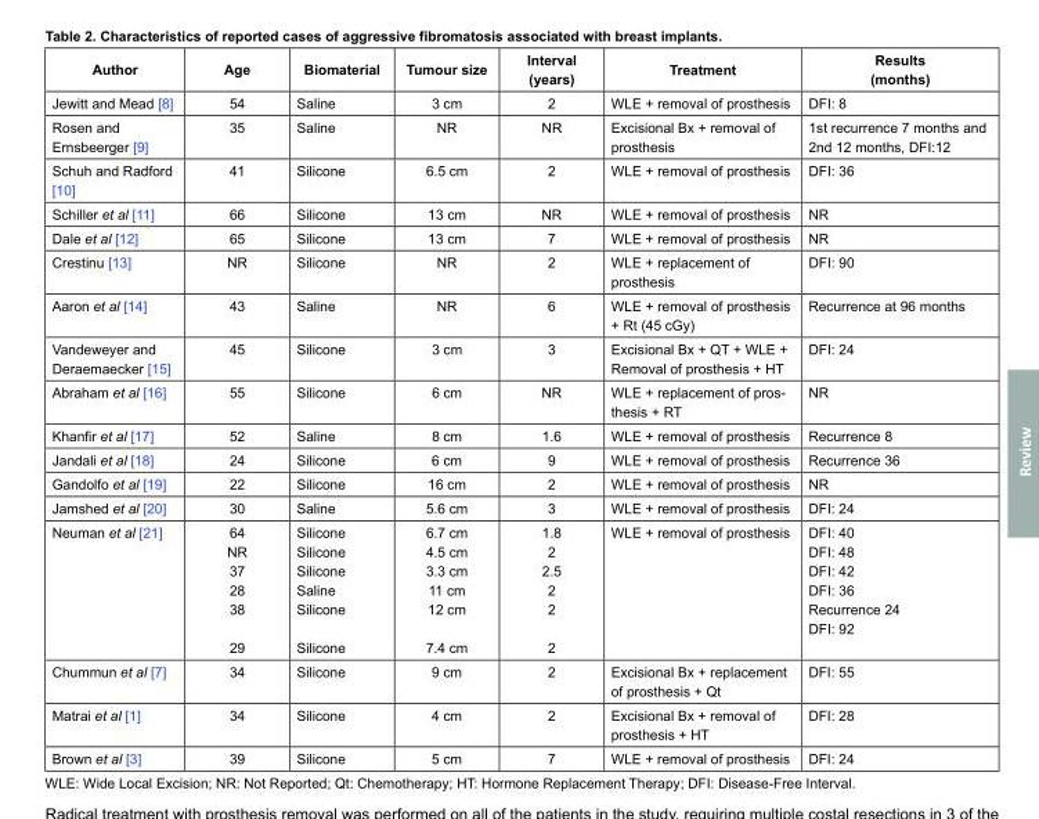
<table><thead><tr><td>Author</td><td>Age</td><td>Biomaterial</td><td>Tumour size</td><td>Interval (years)</td><td>Treatment</td><td>Results (months)</td></tr></thead><tbody><tr><td>Jewitt and Mead [8]</td><td>54</td><td>Saline</td><td>3 cm</td><td>2</td><td>WLE + removal of prosthesis</td><td>DFI: 8</td></tr><tr><td>Rosen and Ernsbeerger [9]</td><td>35</td><td>Saline</td><td>NR</td><td>NR</td><td>Excisional Bx + removal of prosthesis</td><td>1st recurrence 7 months and 2nd 12 months, DFI:12</td></tr><tr><td>Schuh and Radford [10]</td><td>41</td><td>Silicone</td><td>6.5 cm</td><td>2</td><td>WLE + removal of prosthesis</td><td>DFI: 36</td></tr><tr><td>Schiller et al [11]</td><td>66</td><td>Silicone</td><td>13 cm</td><td>NR</td><td>WLE + removal of prosthesis</td><td>NR</td></tr><tr><td>Dale et al [12]</td><td>65</td><td>Silicone</td><td>13 cm</td><td>7</td><td>WLE + removal of prosthesis</td><td>NR</td></tr><tr><td>Crestinu [13]</td><td>NR</td><td>Silicone</td><td>NR</td><td>2</td><td>WLE + replacement of prosthesis</td><td>DFI: 90</td></tr><tr><td>Aaron et al [14]</td><td>43</td><td>Saline</td><td>NR</td><td>6</td><td>WLE + removal of prosthesis + Rt (45 cGy)</td><td>Recurrence at 96 months</td></tr><tr><td>Vandeweyer and Deraemaecker [15]</td><td>45</td><td>Silicone</td><td>3 cm</td><td>3</td><td>Excisional Bx + QT + WLE + Removal of prosthesis + HT</td><td>DFI: 24</td></tr><tr><td>Abraham et al [16]</td><td>55</td><td>Silicone</td><td>6 cm</td><td>NR</td><td>WLE + replacement of pros- thesis + RT</td><td>NR</td></tr><tr><td>Khanfir et al [17]</td><td>52</td><td>Saline</td><td>8 cm</td><td>1.6</td><td>WLE + removal of prosthesis</td><td>Recurrence 8</td></tr><tr><td>Jandali et al [18]</td><td>24</td><td>Silicone</td><td>6 cm</td><td>9</td><td>WLE + removal of prosthesis</td><td>Recurrence 36</td></tr><tr><td>Gandolfo et al [19]</td><td>22</td><td>Silicone</td><td>16 cm</td><td>2</td><td>WLE + removal of prosthesis</td><td>NR</td></tr><tr><td>Jamshed et al [20]</td><td>30</td><td>Saline</td><td>5.6 cm</td><td>3</td><td>WLE + removal of prosthesis</td><td>DFI: 24</td></tr><tr><td>Neuman et al [21]</td><td>64 NR 37 28 38 29</td><td>Silicone Silicone Silicone Saline Silicone Silicone</td><td>6.7 cm 4.5 cm 3.3 cm 11 cm 12 cm 7.4 cm</td><td>1.8 2 2.5 2 2 2</td><td>WLE + removal of prosthesis</td><td>DFI: 40 DFI: 48 DFI: 42 DFI: 36 Recurrence 24 DFI: 92</td></tr><tr><td>Chummun et al [7]</td><td>34</td><td>Silicone</td><td>9 cm</td><td>2</td><td>Excisional Bx + replacement of prosthesis + Qt</td><td>DFI: 55</td></tr><tr><td>Matrai et al [1]</td><td>34</td><td>Silicone</td><td>4 cm</td><td>2</td><td>Excisional Bx + removal of prosthesis + HT</td><td>DFI: 28</td></tr><tr><td>Brown et al [3]</td><td>39</td><td>Silicone</td><td>5 cm</td><td>7</td><td>WLE + removal of prosthesis</td><td>DFI: 24</td></tr></tbody></table>